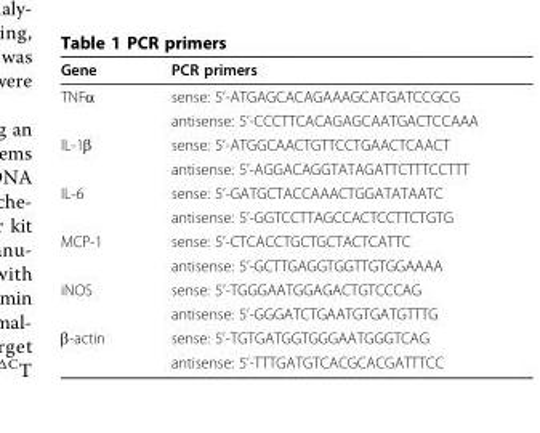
<table><thead><tr><td>Gene</td><td>PCR primers</td></tr></thead><tbody><tr><td rowspan="2">TNFα</td><td>sense: 5’-ATGAGCACAGAAAGCATGATCCGCG</td></tr><tr><td>antisense: 5’-CCCTTCACAGAGCAATGACTCCAAA</td></tr><tr><td rowspan="2">IL-1β</td><td>sense: 5’-ATGGCAACTGTTCCTGAACTCAACT</td></tr><tr><td>antisense: 5’-AGGACAGGTATAGATTCTTTCCTTT</td></tr><tr><td rowspan="2">IL-6</td><td>sense: 5’-GATGCTACCAAACTGGATATAATC</td></tr><tr><td>antisense: 5’-GGTCCTTAGCCACTCCTTCTGTG</td></tr><tr><td rowspan="2">MCP-1</td><td>sense: 5’-CTCACCTGCTGCTACTCATTC</td></tr><tr><td>antisense: 5’-GCTTGAGGTGGTTGTGGAAAA</td></tr><tr><td rowspan="2">iNOS</td><td>sense: 5’-TGGGAATGGAGACTGTCCCAG</td></tr><tr><td>antisense: 5’-GGGATCTGAATGTGATGTTTG</td></tr><tr><td rowspan="2">β-actin</td><td>sense: 5’-TGTGATGGTGGGAATGGGTCAG</td></tr><tr><td>antisense: 5’-TTTGATGTCACGCACGATTTCC</td></tr></tbody></table>